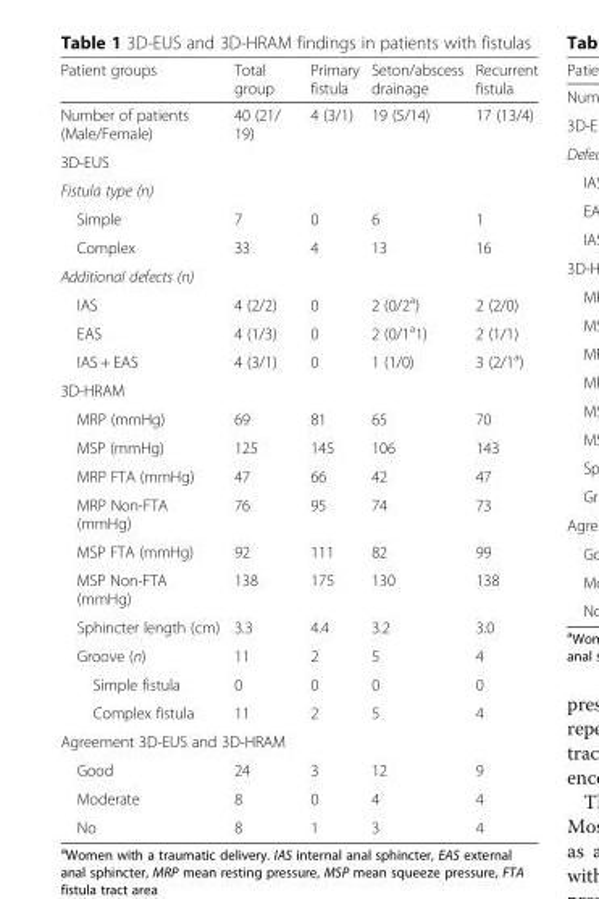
<table><thead><tr><td>Patient groups</td><td>Total group</td><td>Primary fistula</td><td>Seton/abscess drainage</td><td>Recurrent fistula</td></tr></thead><tbody><tr><td>Number of patients (Male/Female)</td><td>40 (21/ 19)</td><td>4 (3/1)</td><td>19 (5/14)</td><td>17 (13/4)</td></tr><tr><td colspan="5">3D-EUS</td></tr><tr><td colspan="5">Fistula type (n)</td></tr><tr><td>Simple</td><td>7</td><td>0</td><td>6</td><td>1</td></tr><tr><td>Complex</td><td>33</td><td>4</td><td>13</td><td>16</td></tr><tr><td colspan="5">Additional defects (n)</td></tr><tr><td>IAS</td><td>4 (2/2)</td><td>0</td><td>2 (0/2<sup>a</sup>)</td><td>2 (2/0)</td></tr><tr><td>EAS</td><td>4 (1/3)</td><td>0</td><td>2 (0/1<sup>a</sup>1)</td><td>2 (1/1)</td></tr><tr><td>IAS + EAS</td><td>4 (3/1)</td><td>0</td><td>1 (1/0)</td><td>3 (2/1<sup>a</sup>)</td></tr><tr><td colspan="5">3D-HRAM</td></tr><tr><td>MRP (mmHg)</td><td>69</td><td>81</td><td>65</td><td>70</td></tr><tr><td>MSP (mmHg)</td><td>125</td><td>145</td><td>106</td><td>143</td></tr><tr><td>MRP FTA (mmHg)</td><td>47</td><td>66</td><td>42</td><td>47</td></tr><tr><td>MRP Non-FTA (mmHg)</td><td>76</td><td>95</td><td>74</td><td>73</td></tr><tr><td>MSP FTA (mmHg)</td><td>92</td><td>111</td><td>82</td><td>99</td></tr><tr><td>MSP Non-FTA (mmHg)</td><td>138</td><td>175</td><td>130</td><td>138</td></tr><tr><td>Sphincter length (cm)</td><td>3.3</td><td>4.4</td><td>3.2</td><td>3.0</td></tr><tr><td>Groove (n)</td><td>11</td><td>2</td><td>5</td><td>4</td></tr><tr><td>Simple fistula</td><td>0</td><td>0</td><td>0</td><td>0</td></tr><tr><td>Complex fistula</td><td>11</td><td>2</td><td>5</td><td>4</td></tr><tr><td colspan="5">Agreement 3D-EUS and 3D-HRAM</td></tr><tr><td>Good</td><td>24</td><td>3</td><td>12</td><td>9</td></tr><tr><td>Moderate</td><td>8</td><td>0</td><td>4</td><td>4</td></tr><tr><td>No</td><td>8</td><td>1</td><td>3</td><td>4</td></tr></tbody></table>